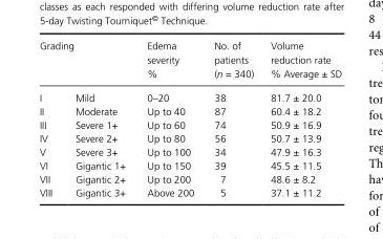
<table><thead><tr><td colspan="2">Grading</td><td rowspan="2">Edema severity % 0–20</td><td rowspan="2">No. of patients (n = 340) 38</td><td rowspan="2">Volume reduction rate % Average ± SD 81.7 ± 20.0</td></tr><tr><td>I</td><td>Mild</td></tr></thead><tbody><tr><td>II</td><td>Moderate</td><td>Up to 40</td><td>87</td><td>60.4 ± 18.2</td></tr><tr><td>III</td><td>Severe 1+</td><td>Up to 60</td><td>74</td><td>50.9 ± 16.9</td></tr><tr><td>IV</td><td>Severe 2+</td><td>Up to 80</td><td>56</td><td>50.7 ± 13.9</td></tr><tr><td>V</td><td>Severe 3+</td><td>Up to 100</td><td>34</td><td>47.9 ± 16.3</td></tr><tr><td>VI</td><td>Gigantic 1+</td><td>Up to 150</td><td>39</td><td>45.5 ± 11.5</td></tr><tr><td>VII</td><td>Gigantic 2+</td><td>Up to 200</td><td>7</td><td>48.6 ± 8.2</td></tr><tr><td>VIII</td><td>Gigantic 3+</td><td>Above 200</td><td>5</td><td>37.1 ± 11.2</td></tr></tbody></table>